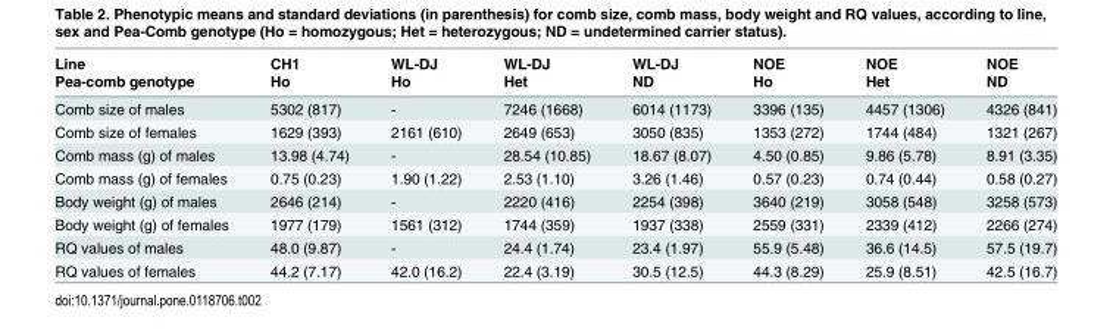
<table><thead><tr><td rowspan="2">Line Pea-comb genotype</td><td rowspan="2">CH1 Ho</td><td rowspan="2">WL-DJ Ho</td><td rowspan="2">WL-DJ Het</td><td rowspan="2">WL-DJ ND</td><td rowspan="2">NOE Ho</td><td rowspan="2">NOE Het</td><td rowspan="2">NOE ND</td></tr><tr></tr></thead><tbody><tr><td>Comb size of males</td><td>5302 (817)</td><td>-</td><td>7246 (1668)</td><td>6014 (1173)</td><td>3396 (135)</td><td>4457 (1306)</td><td>4326 (841)</td></tr><tr><td>Comb size of females</td><td>1629 (393)</td><td>2161 (610)</td><td>2649 (653)</td><td>3050 (835)</td><td>1353 (272)</td><td>1744 (484)</td><td>1321 (267)</td></tr><tr><td>Comb mass (g) of males</td><td>13.98 (4.74)</td><td>-</td><td>28.54 (10.85)</td><td>18.67 (8.07)</td><td>4.50 (0.85)</td><td>9.86 (5.78)</td><td>8.91 (3.35)</td></tr><tr><td>Comb mass (g) of females</td><td>0.75 (0.23)</td><td>1.90 (1.22)</td><td>2.53 (1.10)</td><td>3.26 (1.46)</td><td>0.57 (0.23)</td><td>0.74 (0.44)</td><td>0.58 (0.27)</td></tr><tr><td>Body weight (g) of males</td><td>2646 (214)</td><td>-</td><td>2220 (416)</td><td>2254 (398)</td><td>3640 (219)</td><td>3058 (548)</td><td>3258 (573)</td></tr><tr><td>Body weight (g) of females</td><td>1977 (179)</td><td>1561 (312)</td><td>1744 (359)</td><td>1937 (338)</td><td>2559 (331)</td><td>2339 (412)</td><td>2266 (274)</td></tr><tr><td>RQ values of males</td><td>48.0 (9.87)</td><td>-</td><td>24.4 (1.74)</td><td>23.4 (1.97)</td><td>55.9 (5.48)</td><td>36.6 (14.5)</td><td>57.5 (19.7)</td></tr><tr><td>RQ values of females</td><td>44.2 (7.17)</td><td>42.0 (16.2)</td><td>22.4 (3.19)</td><td>30.5 (12.5)</td><td>44.3 (8.29)</td><td>25.9 (8.51)</td><td>42.5 (16.7)</td></tr></tbody></table>